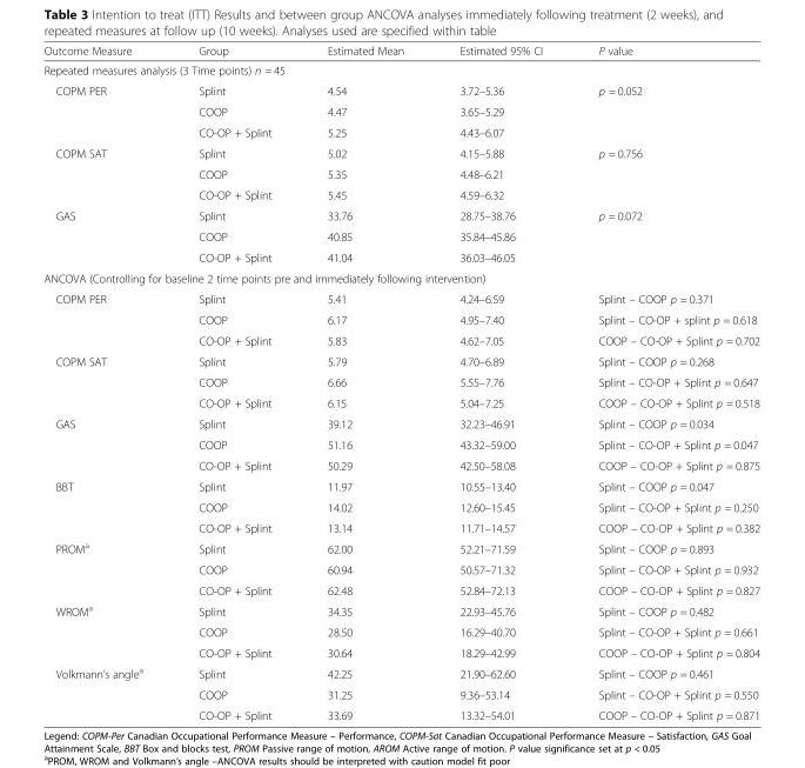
<table><thead><tr><td>Outcome Measure</td><td>Group</td><td>Estimated Mean</td><td>Estimated 95% CI</td><td>P value</td></tr></thead><tbody><tr><td colspan="5">Repeated measures analysis (3 Time points) n = 45</td></tr><tr><td rowspan="3">COPM PER</td><td>Splint</td><td>4.54</td><td>3.72–5.36</td><td rowspan="3">p = 0.052</td></tr><tr><td>COOP</td><td>4.47</td><td>3.65–5.29</td></tr><tr><td>CO-OP + Splint</td><td>5.25</td><td>4.43–6.07</td></tr><tr><td rowspan="3">COPM SAT</td><td>Splint</td><td>5.02</td><td>4.15–5.88</td><td rowspan="3">p = 0.756</td></tr><tr><td>COOP</td><td>5.35</td><td>4.48–6.21</td></tr><tr><td>CO-OP + Splint</td><td>5.45</td><td>4.59–6.32</td></tr><tr><td rowspan="3">GAS</td><td>Splint</td><td>33.76</td><td>28.75–38.76</td><td rowspan="3">p = 0.072</td></tr><tr><td>COOP</td><td>40.85</td><td>35.84–45.86</td></tr><tr><td>CO-OP + Splint</td><td>41.04</td><td>36.03–46.05</td></tr><tr><td colspan="5">ANCOVA (Controlling for baseline 2 time points pre and immediately following intervention)</td></tr><tr><td rowspan="3">COPM PER</td><td>Splint</td><td>5.41</td><td>4.24–6.59</td><td>Splint – COOP p = 0.371</td></tr><tr><td>COOP</td><td>6.17</td><td>4.95–7.40</td><td>Splint – CO-OP + splint p = 0.618</td></tr><tr><td>CO-OP + Splint</td><td>5.83</td><td>4.62–7.05</td><td>COOP – CO-OP + Splint p = 0.702</td></tr><tr><td rowspan="3">COPM SAT</td><td>Splint</td><td>5.79</td><td>4.70–6.89</td><td>Splint – COOP p = 0.268</td></tr><tr><td>COOP</td><td>6.66</td><td>5.55–7.76</td><td>Splint – CO-OP + Splint p = 0.647</td></tr><tr><td>CO-OP + Splint</td><td>6.15</td><td>5.04–7.25</td><td>COOP – CO-OP + Splint p = 0.518</td></tr><tr><td rowspan="3">GAS</td><td>Splint</td><td>39.12</td><td>32.23–46.91</td><td>Splint – COOP p = 0.034</td></tr><tr><td>COOP</td><td>51.16</td><td>43.32–59.00</td><td>Splint – CO-OP + Splint p = 0.047</td></tr><tr><td>CO-OP + Splint</td><td>50.29</td><td>42.50–58.08</td><td>COOP – CO-OP + Splint p = 0.875</td></tr><tr><td rowspan="3">BBT</td><td>Splint</td><td>11.97</td><td>10.55–13.40</td><td>Splint – COOP p = 0.047</td></tr><tr><td>COOP</td><td>14.02</td><td>12.60–15.45</td><td>Splint – CO-OP + Splint p = 0.250</td></tr><tr><td>CO-OP + Splint</td><td>13.14</td><td>11.71–14.57</td><td>COOP – CO-OP + Splint p = 0.382</td></tr><tr><td rowspan="3">PROM<sup>a</sup></td><td>Splint</td><td>62.00</td><td>52.21–71.59</td><td>Splint – COOP p = 0.893</td></tr><tr><td>COOP</td><td>60.94</td><td>50.57–71.32</td><td>Splint – CO-OP + Splint p = 0.932</td></tr><tr><td>CO-OP + Splint</td><td>62.48</td><td>52.84–72.13</td><td>COOP – CO-OP + Splint p = 0.827</td></tr><tr><td rowspan="3">WROM<sup>a</sup></td><td>Splint</td><td>34.35</td><td>22.93–45.76</td><td>Splint – COOP p = 0.482</td></tr><tr><td>COOP</td><td>28.50</td><td>16.29–40.70</td><td>Splint – CO-OP + Splint p = 0.661</td></tr><tr><td>CO-OP + Splint</td><td>30.64</td><td>18.29–42.99</td><td>COOP – CO-OP + Splint p = 0.804</td></tr><tr><td rowspan="3">Volkmann’s angle<sup>a</sup></td><td>Splint</td><td>42.25</td><td>21.90–62.60</td><td>Splint – COOP p = 0.461</td></tr><tr><td>COOP</td><td>31.25</td><td>9.36–53.14</td><td>Splint – CO-OP + Splint p = 0.550</td></tr><tr><td>CO-OP + Splint</td><td>33.69</td><td>13.32–54.01</td><td>COOP – CO-OP + Splint p = 0.871</td></tr></tbody></table>